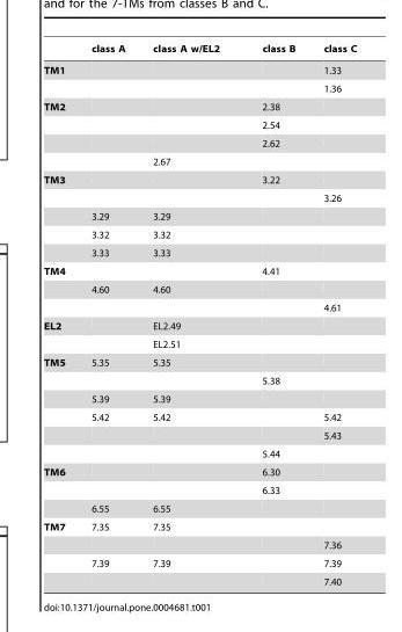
<table><thead><tr><td></td><td>class A</td><td>class A w/EL2</td><td>class B</td><td>class C</td></tr></thead><tbody><tr><td rowspan="2">TM1</td><td></td><td></td><td></td><td>1.33</td></tr><tr><td></td><td></td><td></td><td>1.36</td></tr><tr><td rowspan="4">TM2</td><td></td><td></td><td>2.38</td><td></td></tr><tr><td></td><td></td><td>2.54</td><td></td></tr><tr><td></td><td></td><td>2.62</td><td></td></tr><tr><td></td><td>2.67</td><td></td><td></td></tr><tr><td rowspan="5">TM3</td><td></td><td></td><td>3.22</td><td></td></tr><tr><td></td><td></td><td></td><td>3.26</td></tr><tr><td>3.29</td><td>3.29</td><td></td><td></td></tr><tr><td>3.32</td><td>3.32</td><td></td><td></td></tr><tr><td>3.33</td><td>3.33</td><td></td><td></td></tr><tr><td rowspan="3">TM4</td><td></td><td></td><td>4.41</td><td></td></tr><tr><td>4.60</td><td>4.60</td><td></td><td></td></tr><tr><td></td><td></td><td></td><td>4.61</td></tr><tr><td rowspan="2">EL2</td><td></td><td>EL2.49</td><td></td><td></td></tr><tr><td></td><td>EL2.51</td><td></td><td></td></tr><tr><td rowspan="6">TM5</td><td>5.35</td><td>5.35</td><td></td><td></td></tr><tr><td></td><td></td><td>5.38</td><td></td></tr><tr><td>5.39</td><td>5.39</td><td></td><td></td></tr><tr><td>5.42</td><td>5.42</td><td></td><td>5.42</td></tr><tr><td></td><td></td><td></td><td>5.43</td></tr><tr><td></td><td></td><td>5.44</td><td></td></tr><tr><td rowspan="3">TM6</td><td></td><td></td><td>6.30</td><td></td></tr><tr><td></td><td></td><td>6.33</td><td></td></tr><tr><td>6.55</td><td>6.55</td><td></td><td></td></tr><tr><td rowspan="4">TM7</td><td>7.35</td><td>7.35</td><td></td><td></td></tr><tr><td></td><td></td><td></td><td>7.36</td></tr><tr><td>7.39</td><td>7.39</td><td></td><td>7.39</td></tr><tr><td></td><td></td><td></td><td>7.40</td></tr></tbody></table>